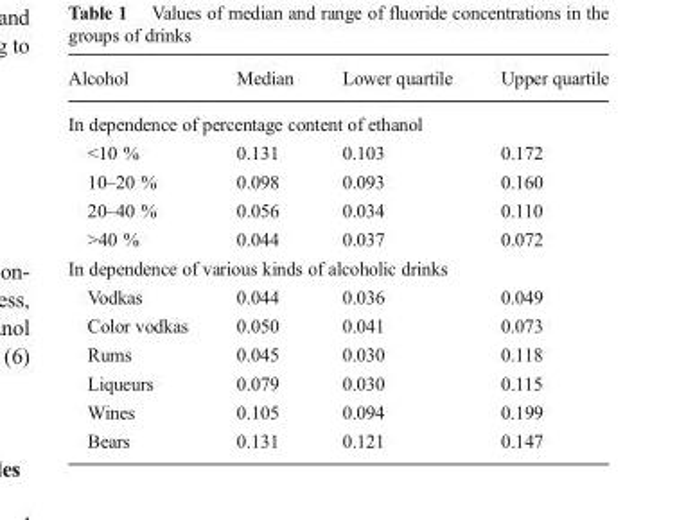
<table><thead><tr><td>Alcohol</td><td>Median</td><td>Lower quartile</td><td>Upper quartile</td></tr></thead><tbody><tr><td colspan="4">In dependence of percentage content of ethanol</td></tr><tr><td>&lt;10 %</td><td>0.131</td><td>0.103</td><td>0.172</td></tr><tr><td>10–20 %</td><td>0.098</td><td>0.093</td><td>0.160</td></tr><tr><td>20–40 %</td><td>0.056</td><td>0.034</td><td>0.110</td></tr><tr><td>&gt;40 %</td><td>0.044</td><td>0.037</td><td>0.072</td></tr><tr><td colspan="4">In dependence of various kinds of alcoholic drinks</td></tr><tr><td>Vodkas</td><td>0.044</td><td>0.036</td><td>0.049</td></tr><tr><td>Color vodkas</td><td>0.050</td><td>0.041</td><td>0.073</td></tr><tr><td>Rums</td><td>0.045</td><td>0.030</td><td>0.118</td></tr><tr><td>Liqueurs</td><td>0.079</td><td>0.030</td><td>0.115</td></tr><tr><td>Wines</td><td>0.105</td><td>0.094</td><td>0.199</td></tr><tr><td>Bears</td><td>0.131</td><td>0.121</td><td>0.147</td></tr></tbody></table>